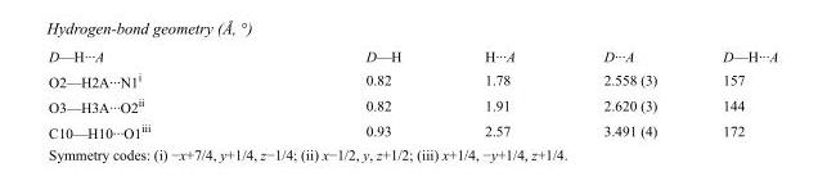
<table><tbody><tr><td>D—H···A</td><td>D—H</td><td>H···A</td><td>D···A</td><td>D—H···A</td></tr><tr><td>O2—H2A···N1<sup>i</sup></td><td>0.82</td><td>1.78</td><td>2.558 (3)</td><td>157</td></tr><tr><td>O3—H3A···O2<sup>ii</sup></td><td>0.82</td><td>1.91</td><td>2.620 (3)</td><td>144</td></tr><tr><td>C10—H10···O1<sup>iii</sup></td><td>0.93</td><td>2.57</td><td>3.491 (4)</td><td>172</td></tr></tbody></table>